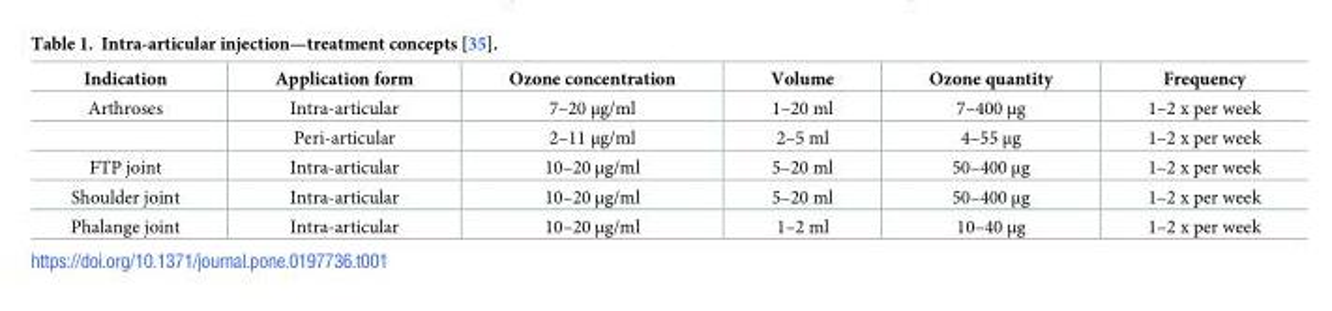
<table><thead><tr><td>Indication</td><td>Application form</td><td>Ozone concentration</td><td>Volume</td><td>Ozone quantity</td><td>Frequency</td></tr></thead><tbody><tr><td rowspan="2">Arthroses</td><td>Intra-articular</td><td>7–20 μg/ml</td><td>1–20 ml</td><td>7–400 μg</td><td>1–2 x per week</td></tr><tr><td>Peri-articular</td><td>2–11 μg/ml</td><td>2–5 ml</td><td>4–55 μg</td><td>1–2 x per week</td></tr><tr><td>FTP joint</td><td>Intra-articular</td><td>10–20 μg/ml</td><td>5–20 ml</td><td>50–400 μg</td><td>1–2 x per week</td></tr><tr><td>Shoulder joint</td><td>Intra-articular</td><td>10–20 μg/ml</td><td>5–20 ml</td><td>50–400 μg</td><td>1–2 x per week</td></tr><tr><td>Phalange joint</td><td>Intra-articular</td><td>10–20 μg/ml</td><td>1–2 ml</td><td>10–40 μg</td><td>1–2 x per week</td></tr></tbody></table>